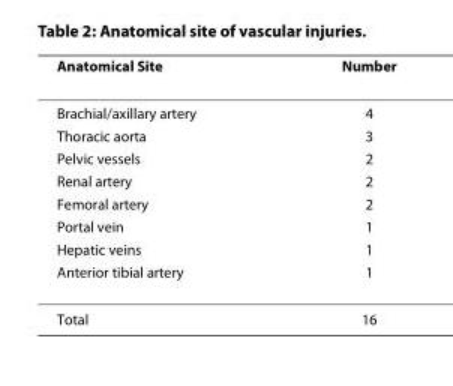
<table><thead><tr><td>Anatomical Site</td><td>Number</td></tr></thead><tbody><tr><td>Brachial/axillary artery</td><td>4</td></tr><tr><td>Thoracic aorta</td><td>3</td></tr><tr><td>Pelvic vessels</td><td>2</td></tr><tr><td>Renal artery</td><td>2</td></tr><tr><td>Femoral artery</td><td>2</td></tr><tr><td>Portal vein</td><td>1</td></tr><tr><td>Hepatic veins</td><td>1</td></tr><tr><td>Anterior tibial artery</td><td>1</td></tr><tr><td>Total</td><td>16</td></tr></tbody></table>